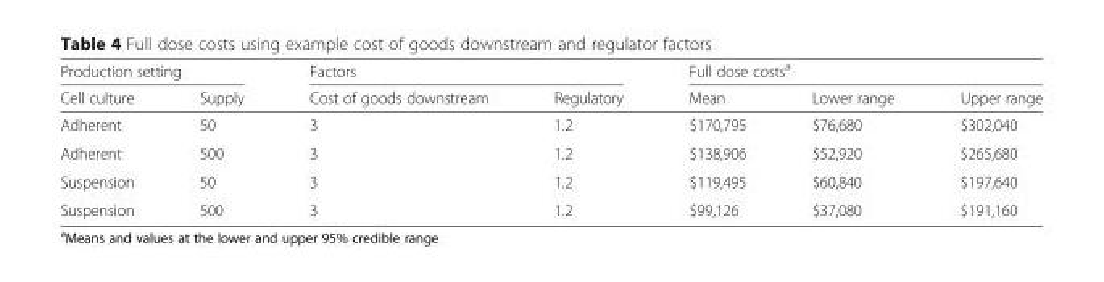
<table><thead><tr><td colspan="2">Production setting</td><td colspan="2">Factors</td><td colspan="3">Full dose costs<sup>a</sup></td></tr><tr><td>Cell culture</td><td>Supply</td><td>Cost of goods downstream</td><td>Regulatory</td><td>Mean</td><td>Lower range</td><td>Upper range</td></tr></thead><tbody><tr><td>Adherent</td><td>50</td><td>3</td><td>1.2</td><td>$170,795</td><td>$76,680</td><td>$302,040</td></tr><tr><td>Adherent</td><td>500</td><td>3</td><td>1.2</td><td>$138,906</td><td>$52,920</td><td>$265,680</td></tr><tr><td>Suspension</td><td>50</td><td>3</td><td>1.2</td><td>$119,495</td><td>$60,840</td><td>$197,640</td></tr><tr><td>Suspension</td><td>500</td><td>3</td><td>1.2</td><td>$99,126</td><td>$37,080</td><td>$191,160</td></tr></tbody></table>